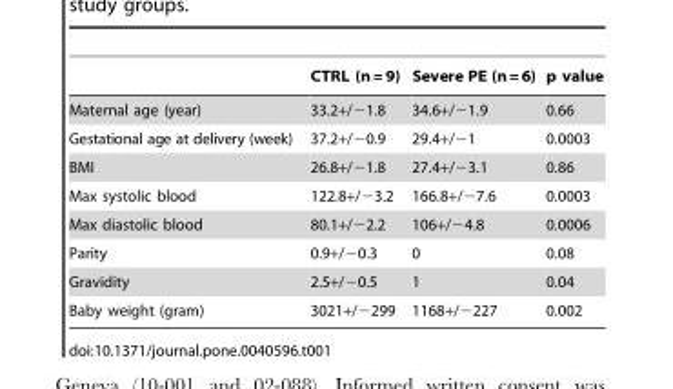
<table><thead><tr><td></td><td>CTRL (n = 9)</td><td>Severe PE (n = 6)</td><td>p value</td></tr></thead><tbody><tr><td>Maternal age (year)</td><td>33.2+/−1.8</td><td>34.6+/−1.9</td><td>0.66</td></tr><tr><td>Gestational age at delivery (week)</td><td>37.2+/−0.9</td><td>29.4+/−1</td><td>0.0003</td></tr><tr><td>BMI</td><td>26.8+/−1.8</td><td>27.4+/−3.1</td><td>0.86</td></tr><tr><td>Max systolic blood</td><td>122.8+/−3.2</td><td>166.8+/−7.6</td><td>0.0003</td></tr><tr><td>Max diastolic blood</td><td>80.1+/−2.2</td><td>106+/−4.8</td><td>0.0006</td></tr><tr><td>Parity</td><td>0.9+/−0.3</td><td>0</td><td>0.08</td></tr><tr><td>Gravidity</td><td>2.5+/−0.5</td><td>1</td><td>0.04</td></tr><tr><td>Baby weight (gram)</td><td>3021+/−299</td><td>1168+/−227</td><td>0.002</td></tr></tbody></table>